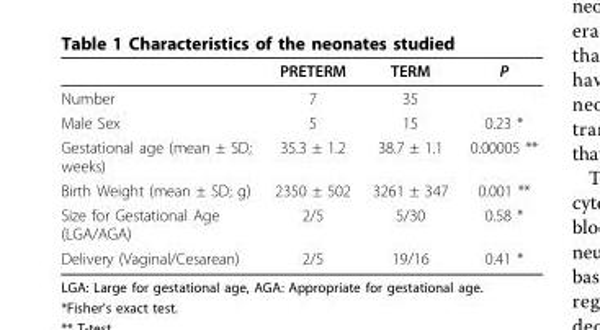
<table><thead><tr><td></td><td>PRETERM</td><td>TERM</td><td>P</td></tr></thead><tbody><tr><td>Number</td><td>7</td><td>35</td><td></td></tr><tr><td>Male Sex</td><td>5</td><td>15</td><td>0.23 *</td></tr><tr><td>Gestational age (mean ± SD; weeks)</td><td>35.3 ± 1.2</td><td>38.7 ± 1.1</td><td>0.00005 **</td></tr><tr><td>Birth Weight (mean ± SD; g)</td><td>2350 ± 502</td><td>3261 ± 347</td><td>0.001 **</td></tr><tr><td>Size for Gestational Age (LGA/AGA)</td><td>2/5</td><td>5/30</td><td>0.58 *</td></tr><tr><td>Delivery (Vaginal/Cesarean)</td><td>2/5</td><td>19/16</td><td>0.41 *</td></tr></tbody></table>